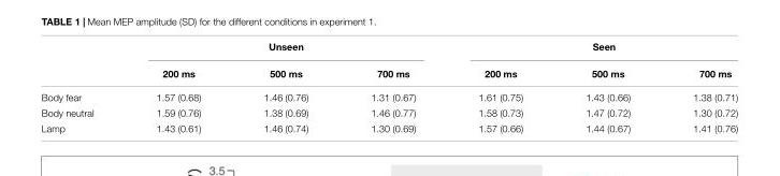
<table><thead><tr><td rowspan="2"></td><td colspan="3">Unseen</td><td colspan="3">Seen</td></tr><tr><td>200 ms</td><td>500 ms</td><td>700 ms</td><td>200 ms</td><td>500 ms</td><td>700 ms</td></tr></thead><tbody><tr><td>Body fear</td><td>1.57 (0.68)</td><td>1.46 (0.76)</td><td>1.31 (0.67)</td><td>1.61 (0.75)</td><td>1.43 (0.66)</td><td>1.38 (0.71)</td></tr><tr><td>Body neutral</td><td>1.59 (0.76)</td><td>1.38 (0.69)</td><td>1.46 (0.77)</td><td>1.58 (0.73)</td><td>1.47 (0.72)</td><td>1.30 (0.72)</td></tr><tr><td>Lamp</td><td>1.43 (0.61)</td><td>1.46 (0.74)</td><td>1.30 (0.69)</td><td>1.57 (0.66)</td><td>1.44 (0.67)</td><td>1.41 (0.76)</td></tr></tbody></table>